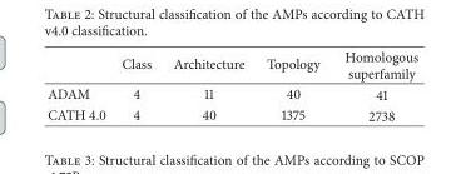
<table><thead><tr><td></td><td>Class</td><td>Architecture</td><td>Topology</td><td>Homologous superfamily</td></tr></thead><tbody><tr><td>ADAM</td><td>4</td><td>11</td><td>40</td><td>41</td></tr><tr><td>CATH 4.0</td><td>4</td><td>40</td><td>1375</td><td>2738</td></tr></tbody></table>